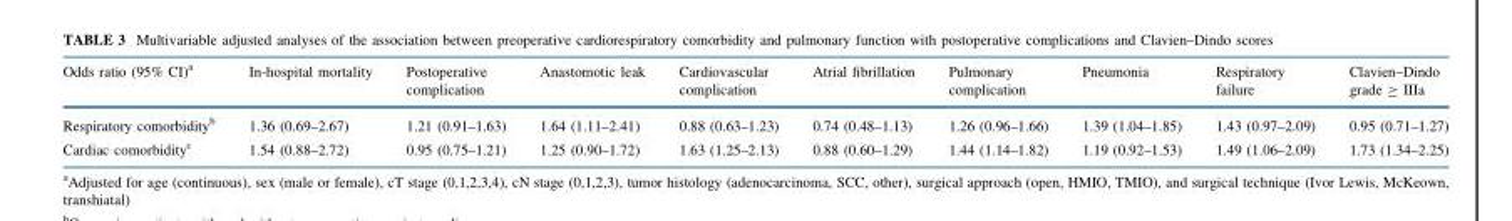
<table><thead><tr><td>Odds ratio (95% CI)<sup>a</sup></td><td>In-hospital mortality</td><td>Postoperative complication</td><td>Anastomotic leak</td><td>Cardiovascular complication</td><td>Atrial fibrillation</td><td>Pulmonary complication</td><td>Pneumonia</td><td>Respiratory failure</td><td>Clavien–Dindo grade ≥ IIIa</td></tr></thead><tbody><tr><td>Respiratory comorbidity<sup>b</sup></td><td>1.36 (0.69–2.67)</td><td>1.21 (0.91–1.63)</td><td>1.64 (1.11–2.41)</td><td>0.88 (0.63–1.23)</td><td>0.74 (0.48–1.13)</td><td>1.26 (0.96–1.66)</td><td>1.39 (1.04–1.85)</td><td>1.43 (0.97–2.09)</td><td>0.95 (0.71–1.27)</td></tr><tr><td>Cardiac comorbidity<sup>c</sup></td><td>1.54 (0.88–2.72)</td><td>0.95 (0.75–1.21)</td><td>1.25 (0.90–1.72)</td><td>1.63 (1.25–2.13)</td><td>0.88 (0.60–1.29)</td><td>1.44 (1.14–1.82)</td><td>1.19 (0.92–1.53)</td><td>1.49 (1.06–2.09)</td><td>1.73 (1.34–2.25)</td></tr></tbody></table>